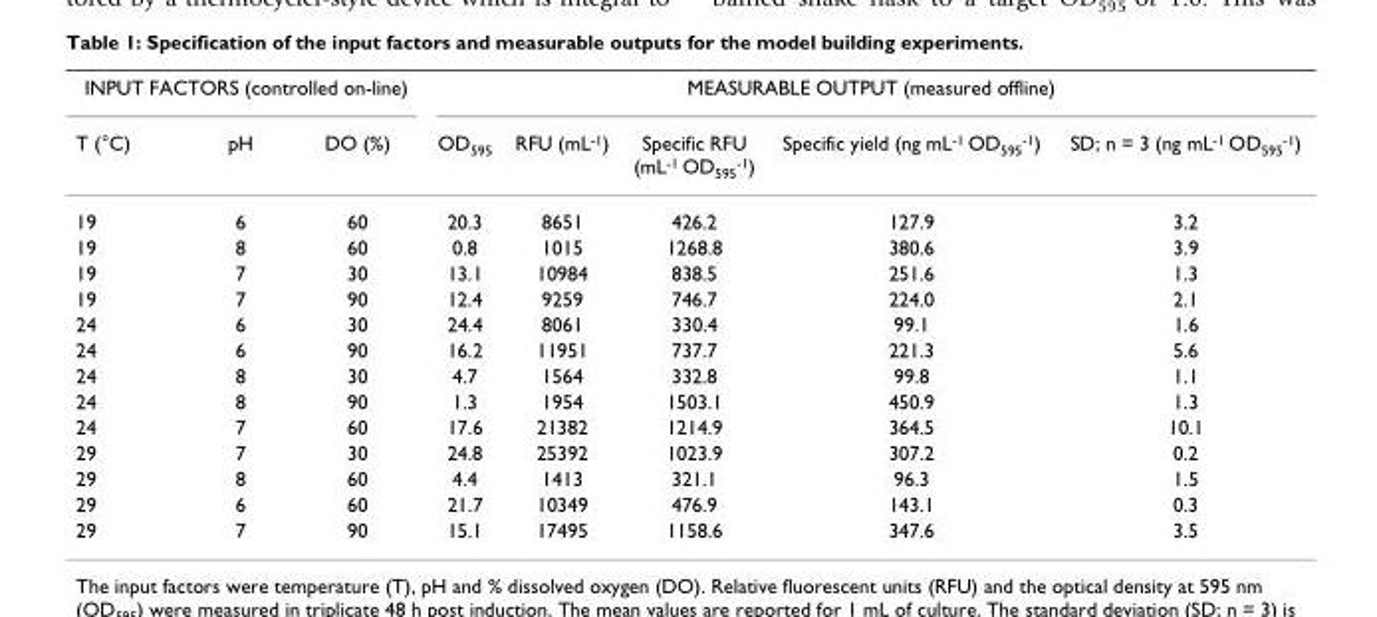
<table><thead><tr><td colspan="3">INPUT FACTORS (controlled on-line)</td><td colspan="5">MEASURABLE OUTPUT (measured offline)</td></tr><tr><td>T (°C)</td><td>pH</td><td>DO (%)</td><td>OD<sub>595</sub></td><td>RFU (mL<sup>-1</sup>)</td><td>Specific RFU (mL<sup>-1</sup> OD<sub>595</sub><sup>-1</sup>)</td><td>Specific yield (ng mL<sup>-1</sup> OD<sub>595</sub><sup>-1</sup>)</td><td>SD; n = 3 (ng mL<sup>-1</sup> OD<sub>595</sub><sup>-1</sup>)</td></tr></thead><tbody><tr><td>19</td><td>6</td><td>60</td><td>20.3</td><td>8651</td><td>426.2</td><td>127.9</td><td>3.2</td></tr><tr><td>19</td><td>8</td><td>60</td><td>0.8</td><td>1015</td><td>1268.8</td><td>380.6</td><td>3.9</td></tr><tr><td>19</td><td>7</td><td>30</td><td>13.1</td><td>10984</td><td>838.5</td><td>251.6</td><td>1.3</td></tr><tr><td>19</td><td>7</td><td>90</td><td>12.4</td><td>9259</td><td>746.7</td><td>224.0</td><td>2.1</td></tr><tr><td>24</td><td>6</td><td>30</td><td>24.4</td><td>8061</td><td>330.4</td><td>99.1</td><td>1.6</td></tr><tr><td>24</td><td>6</td><td>90</td><td>16.2</td><td>11951</td><td>737.7</td><td>221.3</td><td>5.6</td></tr><tr><td>24</td><td>8</td><td>30</td><td>4.7</td><td>1564</td><td>332.8</td><td>99.8</td><td>1.1</td></tr><tr><td>24</td><td>8</td><td>90</td><td>1.3</td><td>1954</td><td>1503.1</td><td>450.9</td><td>1.3</td></tr><tr><td>24</td><td>7</td><td>60</td><td>17.6</td><td>21382</td><td>1214.9</td><td>364.5</td><td>10.1</td></tr><tr><td>29</td><td>7</td><td>30</td><td>24.8</td><td>25392</td><td>1023.9</td><td>307.2</td><td>0.2</td></tr><tr><td>29</td><td>8</td><td>60</td><td>4.4</td><td>1413</td><td>321.1</td><td>96.3</td><td>1.5</td></tr><tr><td>29</td><td>6</td><td>60</td><td>21.7</td><td>10349</td><td>476.9</td><td>143.1</td><td>0.3</td></tr><tr><td>29</td><td>7</td><td>90</td><td>15.1</td><td>17495</td><td>1158.6</td><td>347.6</td><td>3.5</td></tr></tbody></table>